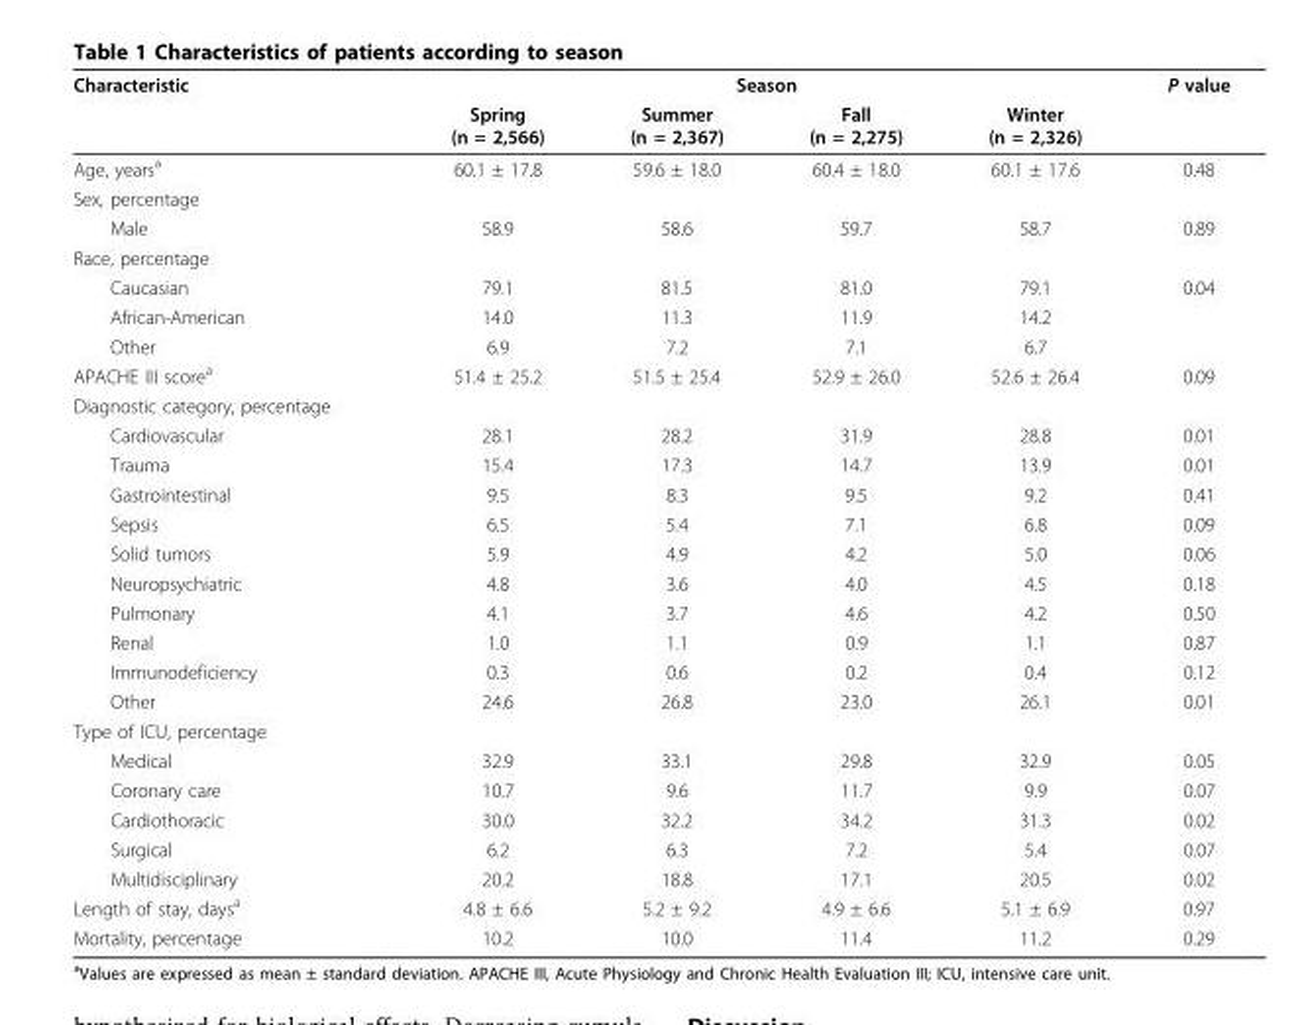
<table><thead><tr><td rowspan="2">Characteristic</td><td colspan="4">Season</td><td rowspan="2">P value</td></tr><tr><td>Spring (n = 2,566)</td><td>Summer (n = 2,367)</td><td>Fall (n = 2,275)</td><td>Winter (n = 2,326)</td></tr></thead><tbody><tr><td>Age, years<sup>a</sup></td><td>60.1 ± 17.8</td><td>59.6 ± 18.0</td><td>60.4 ± 18.0</td><td>60.1 ± 17.6</td><td>0.48</td></tr><tr><td colspan="6">Sex, percentage</td></tr><tr><td>Male</td><td>58.9</td><td>58.6</td><td>59.7</td><td>58.7</td><td>0.89</td></tr><tr><td colspan="6">Race, percentage</td></tr><tr><td>Caucasian</td><td>79.1</td><td>81.5</td><td>81.0</td><td>79.1</td><td>0.04</td></tr><tr><td>African-American</td><td>14.0</td><td>11.3</td><td>11.9</td><td>14.2</td><td></td></tr><tr><td>Other</td><td>6.9</td><td>7.2</td><td>7.1</td><td>6.7</td><td></td></tr><tr><td>APACHE III score<sup>a</sup></td><td>51.4 ± 25.2</td><td>51.5 ± 25.4</td><td>52.9 ± 26.0</td><td>52.6 ± 26.4</td><td>0.09</td></tr><tr><td colspan="6">Diagnostic category, percentage</td></tr><tr><td>Cardiovascular</td><td>28.1</td><td>28.2</td><td>31.9</td><td>28.8</td><td>0.01</td></tr><tr><td>Trauma</td><td>15.4</td><td>17.3</td><td>14.7</td><td>13.9</td><td>0.01</td></tr><tr><td>Gastrointestinal</td><td>9.5</td><td>8.3</td><td>9.5</td><td>9.2</td><td>0.41</td></tr><tr><td>Sepsis</td><td>6.5</td><td>5.4</td><td>7.1</td><td>6.8</td><td>0.09</td></tr><tr><td>Solid tumors</td><td>5.9</td><td>4.9</td><td>4.2</td><td>5.0</td><td>0.06</td></tr><tr><td>Neuropsychiatric</td><td>4.8</td><td>3.6</td><td>4.0</td><td>4.5</td><td>0.18</td></tr><tr><td>Pulmonary</td><td>4.1</td><td>3.7</td><td>4.6</td><td>4.2</td><td>0.50</td></tr><tr><td>Renal</td><td>1.0</td><td>1.1</td><td>0.9</td><td>1.1</td><td>0.87</td></tr><tr><td>Immunodeficiency</td><td>0.3</td><td>0.6</td><td>0.2</td><td>0.4</td><td>0.12</td></tr><tr><td>Other</td><td>24.6</td><td>26.8</td><td>23.0</td><td>26.1</td><td>0.01</td></tr><tr><td colspan="6">Type of ICU, percentage</td></tr><tr><td>Medical</td><td>32.9</td><td>33.1</td><td>29.8</td><td>32.9</td><td>0.05</td></tr><tr><td>Coronary care</td><td>10.7</td><td>9.6</td><td>11.7</td><td>9.9</td><td>0.07</td></tr><tr><td>Cardiothoracic</td><td>30.0</td><td>32.2</td><td>34.2</td><td>31.3</td><td>0.02</td></tr><tr><td>Surgical</td><td>6.2</td><td>6.3</td><td>7.2</td><td>5.4</td><td>0.07</td></tr><tr><td>Multidisciplinary</td><td>20.2</td><td>18.8</td><td>17.1</td><td>20.5</td><td>0.02</td></tr><tr><td>Length of stay, days<sup>a</sup></td><td>4.8 ± 6.6</td><td>5.2 ± 9.2</td><td>4.9 ± 6.6</td><td>5.1 ± 6.9</td><td>0.97</td></tr><tr><td>Mortality, percentage</td><td>10.2</td><td>10.0</td><td>11.4</td><td>11.2</td><td>0.29</td></tr></tbody></table>